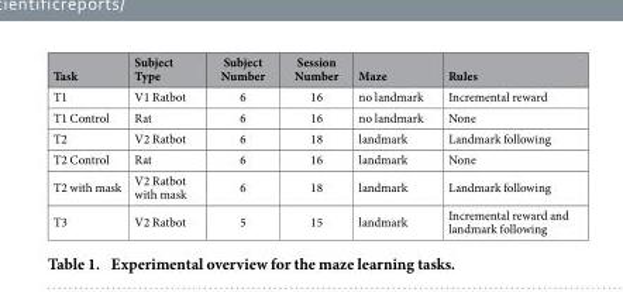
<table><thead><tr><td>Task</td><td>Subject Type</td><td>Subject Number</td><td>Session Number</td><td>Maze</td><td>Rules</td></tr></thead><tbody><tr><td>T1</td><td>V1 Ratbot</td><td>6</td><td>16</td><td>no landmark</td><td>Incremental reward</td></tr><tr><td>T1 Control</td><td>Rat</td><td>6</td><td>16</td><td>no landmark</td><td>None</td></tr><tr><td>T2</td><td>V2 Ratbot</td><td>6</td><td>18</td><td>landmark</td><td>Landmark following</td></tr><tr><td>T2 Control</td><td>Rat</td><td>6</td><td>16</td><td>landmark</td><td>None</td></tr><tr><td>T2 with mask</td><td>V2 Ratbot with mask</td><td>6</td><td>18</td><td>landmark</td><td>Landmark following</td></tr><tr><td>T3</td><td>V2 Ratbot</td><td>5</td><td>15</td><td>landmark</td><td>Incremental reward and landmark following</td></tr></tbody></table>